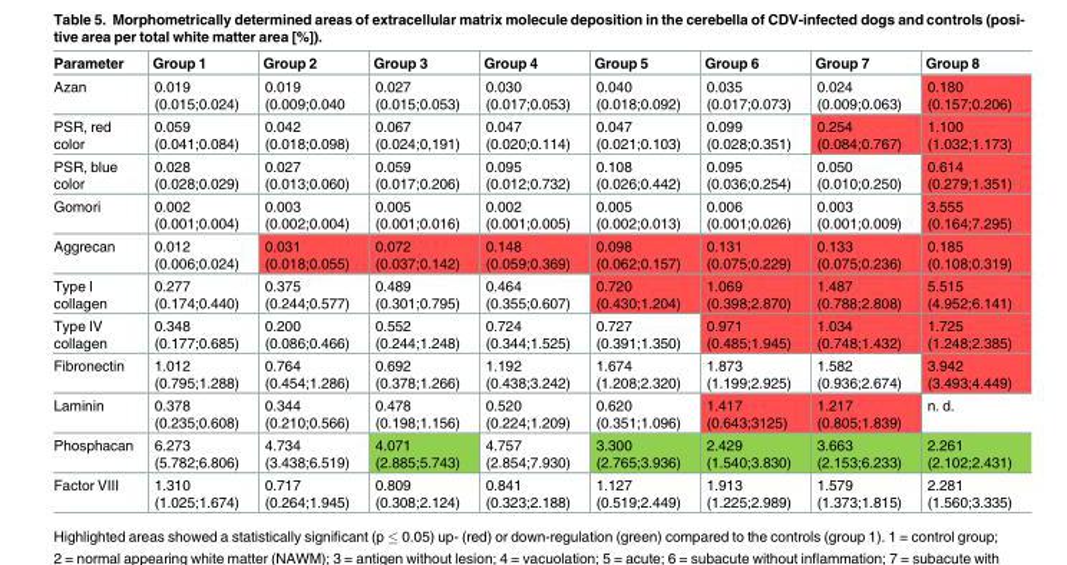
<table><thead><tr><td>Parameter</td><td>Group 1</td><td>Group 2</td><td>Group 3</td><td>Group 4</td><td>Group 5</td><td>Group 6</td><td>Group 7</td><td>Group 8</td></tr></thead><tbody><tr><td>Azan</td><td>0.019 (0.015;0.024)</td><td>0.019 (0.009;0.040</td><td>0.027 (0.015;0.053)</td><td>0.030 (0.017;0.053)</td><td>0.040 (0.018;0.092)</td><td>0.035 (0.017;0.073)</td><td>0.024 (0.009;0.063)</td><td>0.180 (0.157;0.206)</td></tr><tr><td>PSR, red color</td><td>0.059 (0.041;0.084)</td><td>0.042 (0.018;0.098)</td><td>0.067 (0.024;0,191)</td><td>0.047 (0.020;0.114)</td><td>0.047 (0.021;0.103)</td><td>0.099 (0.028;0.351)</td><td>0.254 (0.084;0.767)</td><td>1.100 (1.032;1.173)</td></tr><tr><td>PSR, blue color</td><td>0.028 (0.028;0.029)</td><td>0.027 (0.013;0.060)</td><td>0.059 (0.017;0.206)</td><td>0.095 (0.012;0.732)</td><td>0.108 (0.026;0.442)</td><td>0.095 (0.036;0.254)</td><td>0.050 (0.010;0.250)</td><td>0.614 (0.279;1.351)</td></tr><tr><td>Gomori</td><td>0.002 (0.001;0.004)</td><td>0.003 (0.002;0.004)</td><td>0.005 (0.001;0.016)</td><td>0.002 (0.001;0.005)</td><td>0.005 (0.002;0.013)</td><td>0.006 (0.001;0.026)</td><td>0.003 (0.001;0.009)</td><td>3.555 (0.164;7.295)</td></tr><tr><td>Aggrecan</td><td>0.012 (0.006;0.024)</td><td>0.031 (0.018;0.055)</td><td>0.072 (0.037;0.142)</td><td>0.148 (0.059;0.369)</td><td>0.098 (0.062;0.157)</td><td>0.131 (0.075;0.229)</td><td>0.133 (0.075;0.236)</td><td>0.185 (0.108;0.319)</td></tr><tr><td>Type I collagen</td><td>0.277 (0.174;0.440)</td><td>0.375 (0.244;0.577)</td><td>0.489 (0.301;0.795)</td><td>0.464 (0.355;0.607)</td><td>0.720 (0.430;1.204)</td><td>1.069 (0.398;2.870)</td><td>1.487 (0.788;2.808)</td><td>5.515 (4.952;6.141)</td></tr><tr><td>Type IV collagen</td><td>0.348 (0.177;0.685)</td><td>0.200 (0.086;0.466)</td><td>0.552 (0.244;1.248)</td><td>0.724 (0.344;1.525)</td><td>0.727 (0.391;1.350)</td><td>0.971 (0.485;1.945)</td><td>1.034 (0.748;1.432)</td><td>1.725 (1.248;2.385)</td></tr><tr><td>Fibronectin</td><td>1.012 (0.795;1.288)</td><td>0.764 (0.454;1.286)</td><td>0.692 (0.378;1.266)</td><td>1.192 (0.438;3.242)</td><td>1.674 (1.208;2.320)</td><td>1.873 (1.199;2.925)</td><td>1.582 (0.936;2.674)</td><td>3.942 (3.493;4.449)</td></tr><tr><td>Laminin</td><td>0.378 (0.235;0.608)</td><td>0.344 (0.210;0.566)</td><td>0.478 (0.198;1.156)</td><td>0.520 (0.224;1.209)</td><td>0.620 (0.351;1.096)</td><td>1.417 (0.643;3125)</td><td>1.217 (0.805;1.839)</td><td>n. d.</td></tr><tr><td>Phosphacan</td><td>6.273 (5.782;6.806)</td><td>4.734 (3.438;6.519)</td><td>4.071 (2.885;5.743)</td><td>4.757 (2.854;7.930)</td><td>3.300 (2.765;3.936)</td><td>2.429 (1.540;3.830)</td><td>3.663 (2.153;6.233)</td><td>2.261 (2.102;2.431)</td></tr><tr><td>Factor VIII</td><td>1.310 (1.025;1.674)</td><td>0.717 (0.264;1.945)</td><td>0.809 (0.308;2.124)</td><td>0.841 (0.323;2.188)</td><td>1.127 (0.519;2.449)</td><td>1.913 (1.225;2.989)</td><td>1.579 (1.373;1.815)</td><td>2.281 (1.560;3.335)</td></tr></tbody></table>